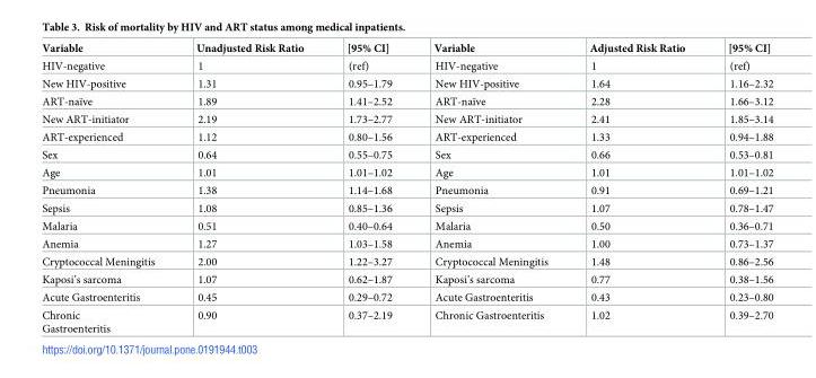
<table><thead><tr><td>Variable</td><td>Unadjusted Risk Ratio</td><td>[95% CI]</td><td>Variable</td><td>Adjusted Risk Ratio</td><td>[95% CI]</td></tr></thead><tbody><tr><td>HIV-negative</td><td>1</td><td>(ref)</td><td>HIV-negative</td><td>1</td><td>(ref)</td></tr><tr><td>New HIV-positive</td><td>1.31</td><td>0.95–1.79</td><td>New HIV-positive</td><td>1.64</td><td>1.16–2.32</td></tr><tr><td>ART-naïve</td><td>1.89</td><td>1.41–2.52</td><td>ART-naïve</td><td>2.28</td><td>1.66–3.12</td></tr><tr><td>New ART-initiator</td><td>2.19</td><td>1.73–2.77</td><td>New ART-initiator</td><td>2.41</td><td>1.85–3.14</td></tr><tr><td>ART-experienced</td><td>1.12</td><td>0.80–1.56</td><td>ART-experienced</td><td>1.33</td><td>0.94–1.88</td></tr><tr><td>Sex</td><td>0.64</td><td>0.55–0.75</td><td>Sex</td><td>0.66</td><td>0.53–0.81</td></tr><tr><td>Age</td><td>1.01</td><td>1.01–1.02</td><td>Age</td><td>1.01</td><td>1.01–1.02</td></tr><tr><td>Pneumonia</td><td>1.38</td><td>1.14–1.68</td><td>Pneumonia</td><td>0.91</td><td>0.69–1.21</td></tr><tr><td>Sepsis</td><td>1.08</td><td>0.85–1.36</td><td>Sepsis</td><td>1.07</td><td>0.78–1.47</td></tr><tr><td>Malaria</td><td>0.51</td><td>0.40–0.64</td><td>Malaria</td><td>0.50</td><td>0.36–0.71</td></tr><tr><td>Anemia</td><td>1.27</td><td>1.03–1.58</td><td>Anemia</td><td>1.00</td><td>0.73–1.37</td></tr><tr><td>Cryptococcal Meningitis</td><td>2.00</td><td>1.22–3.27</td><td>Cryptococcal Meningitis</td><td>1.48</td><td>0.86–2.56</td></tr><tr><td>Kaposi’s sarcoma</td><td>1.07</td><td>0.62–1.87</td><td>Kaposi’s sarcoma</td><td>0.77</td><td>0.38–1.56</td></tr><tr><td>Acute Gastroenteritis</td><td>0.45</td><td>0.29–0.72</td><td>Acute Gastroenteritis</td><td>0.43</td><td>0.23–0.80</td></tr><tr><td>Chronic Gastroenteritis</td><td>0.90</td><td>0.37–2.19</td><td>Chronic Gastroenteritis</td><td>1.02</td><td>0.39–2.70</td></tr></tbody></table>